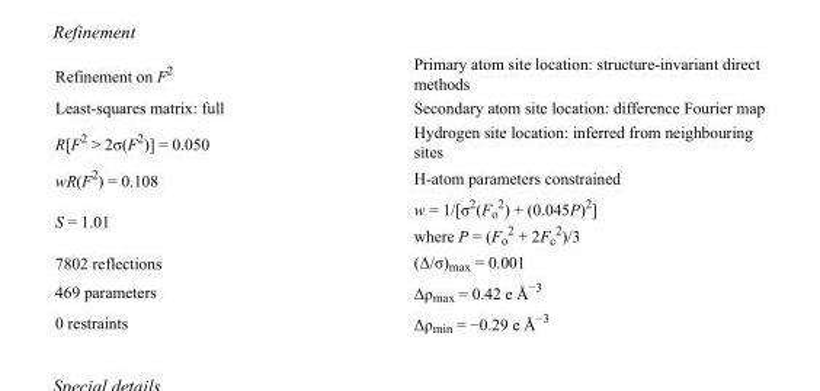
<table><tbody><tr><td>Refinement on F<sup>2</sup></td><td>Primary atom site location: structure-invariant direct methods</td></tr><tr><td>Least-squares matrix: full</td><td>Secondary atom site location: difference Fourier map</td></tr><tr><td>R[F<sup>2</sup> &gt; 2σ(F<sup>2</sup>)] = 0.050</td><td>Hydrogen site location: inferred from neighbouring sites</td></tr><tr><td>wR(F<sup>2</sup>) = 0.108</td><td>H-atom parameters constrained</td></tr><tr><td>S = 1.01</td><td>w = 1/[σ<sup>2</sup>(F<sub>o</sub> <sup>2</sup>) + (0.045P)<sup>2</sup>] where P = (F<sub>o</sub> <sup>2</sup> + 2F<sub>c</sub> <sup>2</sup>)/3</td></tr><tr><td>7802 reflections</td><td>(Δ/σ)<sub>max</sub> = 0.001</td></tr><tr><td>469 parameters</td><td>Δρ<sub>max</sub> = 0.42 e Å<sup>−3</sup></td></tr><tr><td>0 restraints</td><td>Δρ<sub>min</sub> = −0.29 e Å<sup>−3</sup></td></tr></tbody></table>